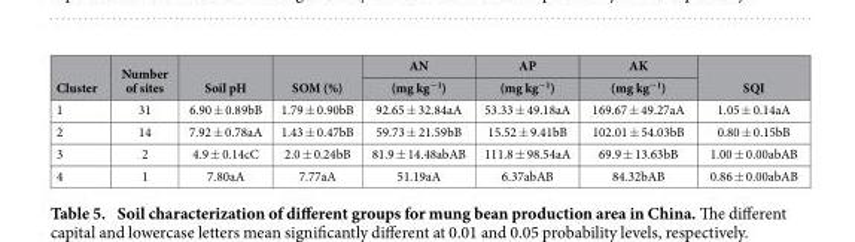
<table><thead><tr><td rowspan="2">Cluster</td><td rowspan="2">Number of sites</td><td rowspan="2">Soil pH</td><td rowspan="2">SOM (%)</td><td rowspan="2">AN (mg kg<sup>−1</sup>)</td><td rowspan="2">AP (mg kg<sup>−1</sup>)</td><td rowspan="2">AK (mg kg<sup>−1</sup>)</td><td rowspan="2">SQI</td></tr><tr></tr></thead><tbody><tr><td>1</td><td>31</td><td>6.90 ± 0.89bB</td><td>1.79 ± 0.90bB</td><td>92.65 ± 32.84aA</td><td>53.33 ± 49.18aA</td><td>169.67 ± 49.27aA</td><td>1.05 ± 0.14aA</td></tr><tr><td>2</td><td>14</td><td>7.92 ± 0.78aA</td><td>1.43 ± 0.47bB</td><td>59.73 ± 21.59bB</td><td>15.52 ± 9.41bB</td><td>102.01 ± 54.03bB</td><td>0.80 ± 0.15bB</td></tr><tr><td>3</td><td>2</td><td>4.9 ± 0.14cC</td><td>2.0 ± 0.24bB</td><td>81.9 ± 14.48abAB</td><td>111.8 ± 98.54aA</td><td>69.9 ± 13.63bB</td><td>1.00 ± 0.00abAB</td></tr><tr><td>4</td><td>1</td><td>7.80aA</td><td>7.77aA</td><td>51.19aA</td><td>6.37abAB</td><td>84.32bAB</td><td>0.86 ± 0.00abAB</td></tr></tbody></table>